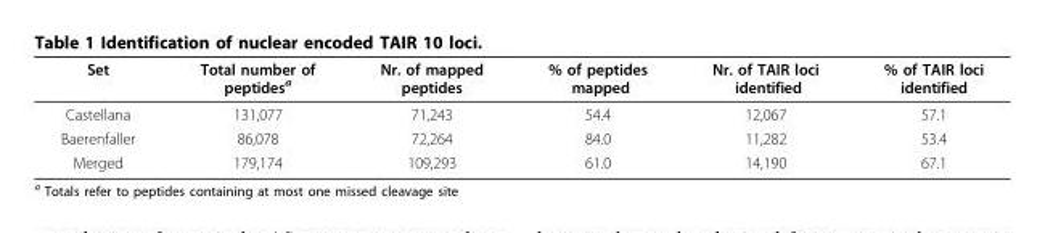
<table><thead><tr><td>Set</td><td>Total number of peptides<sup>a</sup></td><td>Nr. of mapped peptides</td><td>% of peptides mapped</td><td>Nr. of TAIR loci identified</td><td>% of TAIR loci identified</td></tr></thead><tbody><tr><td>Castellana</td><td>131,077</td><td>71,243</td><td>54.4</td><td>12,067</td><td>57.1</td></tr><tr><td>Baerenfaller</td><td>86,078</td><td>72,264</td><td>84.0</td><td>11,282</td><td>53.4</td></tr><tr><td>Merged</td><td>179,174</td><td>109,293</td><td>61.0</td><td>14,190</td><td>67.1</td></tr></tbody></table>